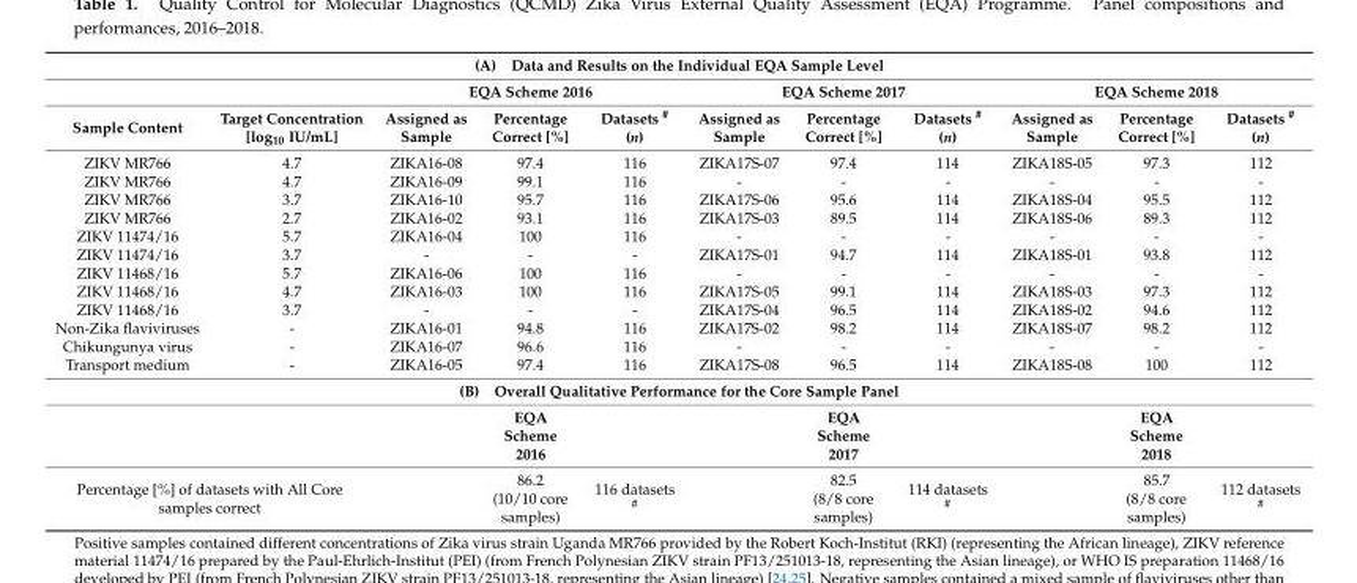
<table><tbody><tr><td colspan="11">(A) Data and Results on the Individual EQA Sample Level</td></tr><tr><td></td><td></td><td colspan="3">EQA Scheme 2016</td><td colspan="3">EQA Scheme 2017</td><td colspan="3">EQA Scheme 2018</td></tr><tr><td>Sample Content</td><td>Target Concentration [log<sub>10</sub> IU/mL]</td><td>Assigned as Sample</td><td>Percentage Correct [%]</td><td>Datasets <sup>#</sup> (n)</td><td>Assigned as Sample</td><td>Percentage Correct [%]</td><td>Datasets <sup>#</sup> (n)</td><td>Assigned as Sample</td><td>Percentage Correct [%]</td><td>Datasets <sup>#</sup> (n)</td></tr><tr><td>ZIKV MR766</td><td>4.7</td><td>ZIKA16-08</td><td>97.4</td><td>116</td><td>ZIKA17S-07</td><td>97.4</td><td>114</td><td>ZIKA18S-05</td><td>97.3</td><td>112</td></tr><tr><td>ZIKV MR766</td><td>4.7</td><td>ZIKA16-09</td><td>99.1</td><td>116</td><td>-</td><td>-</td><td>-</td><td>-</td><td>-</td><td>-</td></tr><tr><td>ZIKV MR766</td><td>3.7</td><td>ZIKA16-10</td><td>95.7</td><td>116</td><td>ZIKA17S-06</td><td>95.6</td><td>114</td><td>ZIKA18S-04</td><td>95.5</td><td>112</td></tr><tr><td>ZIKV MR766</td><td>2.7</td><td>ZIKA16-02</td><td>93.1</td><td>116</td><td>ZIKA17S-03</td><td>89.5</td><td>114</td><td>ZIKA18S-06</td><td>89.3</td><td>112</td></tr><tr><td>ZIKV 11474/16</td><td>5.7</td><td>ZIKA16-04</td><td>100</td><td>116</td><td>-</td><td>-</td><td>-</td><td>-</td><td>-</td><td>-</td></tr><tr><td>ZIKV 11474/16</td><td>3.7</td><td>-</td><td>-</td><td>-</td><td>ZIKA17S-01</td><td>94.7</td><td>114</td><td>ZIKA18S-01</td><td>93.8</td><td>112</td></tr><tr><td>ZIKV 11468/16</td><td>5.7</td><td>ZIKA16-06</td><td>100</td><td>116</td><td>-</td><td>-</td><td>-</td><td>-</td><td>-</td><td>-</td></tr><tr><td>ZIKV 11468/16</td><td>4.7</td><td>ZIKA16-03</td><td>100</td><td>116</td><td>ZIKA17S-05</td><td>99.1</td><td>114</td><td>ZIKA18S-03</td><td>97.3</td><td>112</td></tr><tr><td>ZIKV 11468/16</td><td>3.7</td><td>-</td><td>-</td><td>-</td><td>ZIKA17S-04</td><td>96.5</td><td>114</td><td>ZIKA18S-02</td><td>94.6</td><td>112</td></tr><tr><td>Non-Zika flaviviruses</td><td>-</td><td>ZIKA16-01</td><td>94.8</td><td>116</td><td>ZIKA17S-02</td><td>98.2</td><td>114</td><td>ZIKA18S-07</td><td>98.2</td><td>112</td></tr><tr><td>Chikungunya virus</td><td>-</td><td>ZIKA16-07</td><td>96.6</td><td>116</td><td>-</td><td>-</td><td>-</td><td>-</td><td>-</td><td>-</td></tr><tr><td>Transport medium</td><td>-</td><td>ZIKA16-05</td><td>97.4</td><td>116</td><td>ZIKA17S-08</td><td>96.5</td><td>114</td><td>ZIKA18S-08</td><td>100</td><td>112</td></tr><tr><td colspan="11">(B) Overall Qualitative Performance for the Core Sample Panel</td></tr><tr><td colspan="2"></td><td></td><td>EQA Scheme 2016</td><td></td><td></td><td>EQA Scheme 2017</td><td></td><td></td><td>EQA Scheme 2018</td><td></td></tr><tr><td colspan="2">Percentage [%] of datasets with All Core samples correct</td><td></td><td>86.2 (10/10 core samples)</td><td>116 datasets <sup>#</sup></td><td></td><td>82.5 (8/8 core samples)</td><td>114 datasets <sup>#</sup></td><td></td><td>85.7 (8/8 core samples)</td><td>112 datasets <sup>#</sup></td></tr></tbody></table>